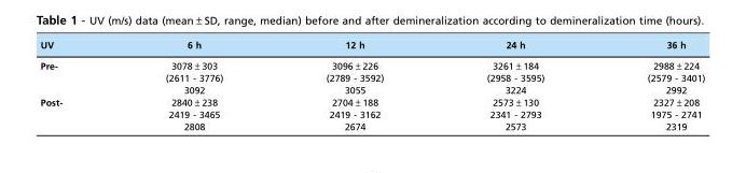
<table><thead><tr><td>UV</td><td>6 h</td><td>12 h</td><td>24 h</td><td>36 h</td></tr></thead><tbody><tr><td rowspan="3">Pre-</td><td>3078±303</td><td>3096±226</td><td>3261±184</td><td>2988±224</td></tr><tr><td>(2611 - 3776)</td><td>(2789 - 3592)</td><td>(2958 - 3595)</td><td>(2579 - 3401)</td></tr><tr><td>3092</td><td>3055</td><td>3224</td><td>2992</td></tr><tr><td rowspan="3">Post-</td><td>2840±238</td><td>2704±188</td><td>2573±130</td><td>2327±208</td></tr><tr><td>2419 - 3465</td><td>2419 - 3162</td><td>2341 - 2793</td><td>1975 - 2741</td></tr><tr><td>2808</td><td>2674</td><td>2573</td><td>2319</td></tr></tbody></table>